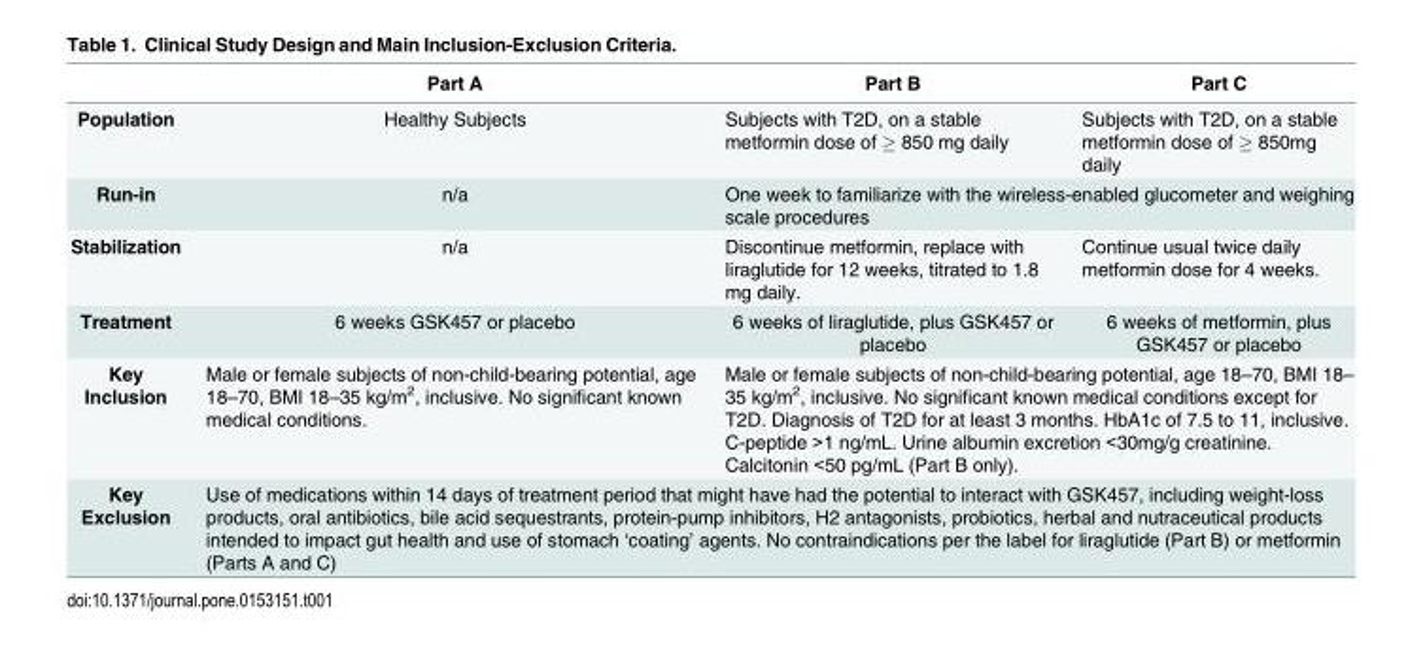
<table><thead><tr><td></td><td>Part A</td><td>Part B</td><td>Part C</td></tr></thead><tbody><tr><td>Population</td><td>Healthy Subjects</td><td>Subjects with T2D, on a stable metformin dose of ≥ 850 mg daily</td><td>Subjects with T2D, on a stable metformin dose of ≥ 850mg daily</td></tr><tr><td>Run-in</td><td>n/a</td><td colspan="2">One week to familiarize with the wireless-enabled glucometer and weighing scale procedures</td></tr><tr><td>Stabilization</td><td>n/a</td><td>Discontinue metformin, replace with liraglutide for 12 weeks, titrated to 1.8 mg daily.</td><td>Continue usual twice daily metformin dose for 4 weeks.</td></tr><tr><td>Treatment</td><td>6 weeks GSK457 or placebo</td><td>6 weeks of liraglutide, plus GSK457 or placebo</td><td>6 weeks of metformin, plus GSK457 or placebo</td></tr><tr><td>Key Inclusion</td><td>Male or female subjects of non-child-bearing potential, age 18–70, BMI 18–35 kg/m<sup>2</sup>, inclusive. No significant known medical conditions.</td><td colspan="2">Male or female subjects of non-child-bearing potential, age 18–70, BMI 18– 35 kg/m<sup>2</sup>, inclusive. No significant known medical conditions except for T2D. Diagnosis of T2D for at least 3 months. HbA1c of 7.5 to 11, inclusive. C-peptide &gt;1 ng/mL. Urine albumin excretion &lt;30mg/g creatinine. Calcitonin &lt;50 pg/mL (Part B only).</td></tr><tr><td>Key Exclusion</td><td colspan="3">Use of medications within 14 days of treatment period that might have had the potential to interact with GSK457, including weight-loss products, oral antibiotics, bile acid sequestrants, protein-pump inhibitors, H2 antagonists, probiotics, herbal and nutraceutical products intended to impact gut health and use of stomach ‘coating’ agents. No contraindications per the label for liraglutide (Part B) or metformin (Parts A and C)</td></tr></tbody></table>